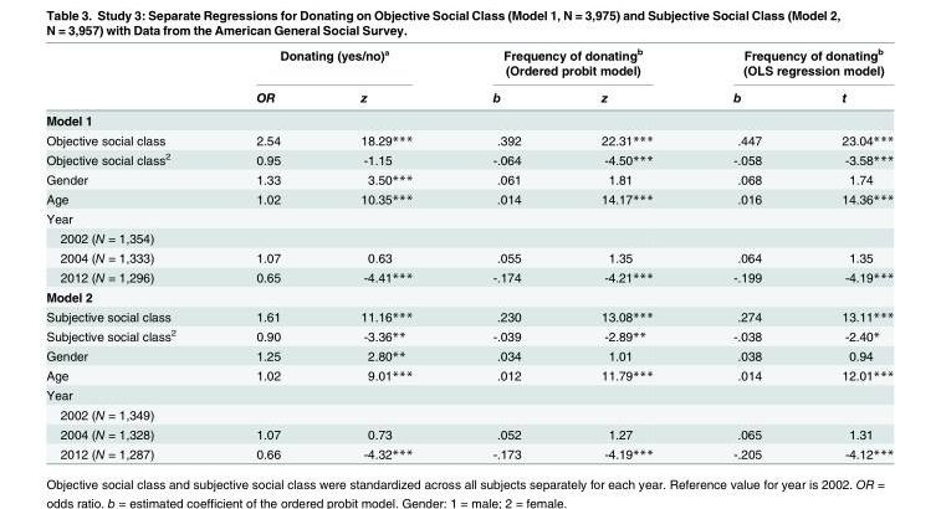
<table><thead><tr><td rowspan="2"></td><td colspan="2">Donating (yes/no)ª</td><td colspan="2">Frequency of donating<sup>b</sup> (Ordered probit model)</td><td colspan="2">Frequency of donating<sup>b</sup> (OLS regression model)</td></tr><tr><td>OR</td><td>z</td><td>b</td><td>z</td><td>b</td><td>t</td></tr></thead><tbody><tr><td colspan="7">Model 1</td></tr><tr><td>Objective social class</td><td>2.54</td><td>18.29***</td><td>.392</td><td>22.31***</td><td>.447</td><td>23.04***</td></tr><tr><td>Objective social class<sup>2</sup></td><td>0.95</td><td>-1.15</td><td>-.064</td><td>-4.50***</td><td>-.058</td><td>-3.58***</td></tr><tr><td>Gender</td><td>1.33</td><td>3.50***</td><td>.061</td><td>1.81</td><td>.068</td><td>1.74</td></tr><tr><td>Age</td><td>1.02</td><td>10.35***</td><td>.014</td><td>14.17***</td><td>.016</td><td>14.36***</td></tr><tr><td colspan="7">Year</td></tr><tr><td colspan="7">2002 (N = 1,354)</td></tr><tr><td>2004 (N = 1,333)</td><td>1.07</td><td>0.63</td><td>.055</td><td>1.35</td><td>.064</td><td>1.35</td></tr><tr><td>2012 (N = 1,296)</td><td>0.65</td><td>-4.41***</td><td>-.174</td><td>-4.21***</td><td>-.199</td><td>-4.19***</td></tr><tr><td colspan="7">Model 2</td></tr><tr><td>Subjective social class</td><td>1.61</td><td>11.16***</td><td>.230</td><td>13.08***</td><td>.274</td><td>13.11***</td></tr><tr><td>Subjective social class<sup>2</sup></td><td>0.90</td><td>-3.36**</td><td>-.039</td><td>-2.89**</td><td>-.038</td><td>-2.40*</td></tr><tr><td>Gender</td><td>1.25</td><td>2.80**</td><td>.034</td><td>1.01</td><td>.038</td><td>0.94</td></tr><tr><td>Age</td><td>1.02</td><td>9.01***</td><td>.012</td><td>11.79***</td><td>.014</td><td>12.01***</td></tr><tr><td colspan="7">Year</td></tr><tr><td colspan="7">2002 (N = 1,349)</td></tr><tr><td>2004 (N = 1,328)</td><td>1.07</td><td>0.73</td><td>.052</td><td>1.27</td><td>.065</td><td>1.31</td></tr><tr><td>2012 (N = 1,287)</td><td>0.66</td><td>-4.32***</td><td>-.173</td><td>-4.19***</td><td>-.205</td><td>-4.12***</td></tr></tbody></table>